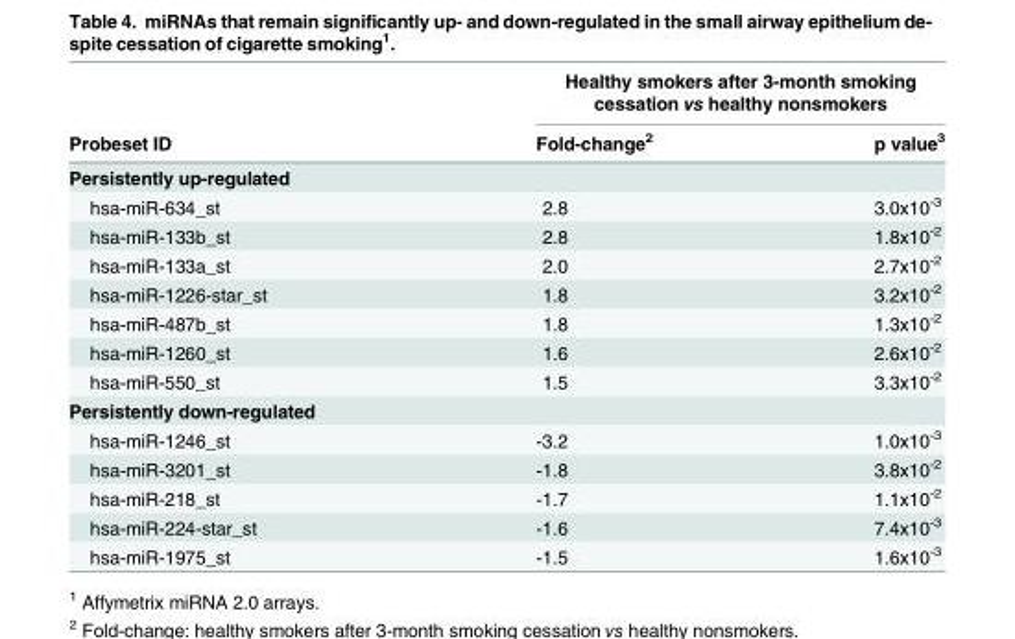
<table><thead><tr><td rowspan="2">Probeset ID</td><td colspan="2">Healthy smokers after 3-month smoking cessation vs healthy nonsmokers</td></tr><tr><td>Fold-change<sup>2</sup></td><td>p value<sup>3</sup></td></tr></thead><tbody><tr><td colspan="3">Persistently up-regulated</td></tr><tr><td>hsa-miR-634_st</td><td>2.8</td><td>3.0x10<sup>-3</sup></td></tr><tr><td>hsa-miR-133b_st</td><td>2.8</td><td>1.8x10<sup>-2</sup></td></tr><tr><td>hsa-miR-133a_st</td><td>2.0</td><td>2.7x10<sup>-2</sup></td></tr><tr><td>hsa-miR-1226-star_st</td><td>1.8</td><td>3.2x10<sup>-2</sup></td></tr><tr><td>hsa-miR-487b_st</td><td>1.8</td><td>1.3x10<sup>-2</sup></td></tr><tr><td>hsa-miR-1260_st</td><td>1.6</td><td>2.6x10<sup>-2</sup></td></tr><tr><td>hsa-miR-550_st</td><td>1.5</td><td>3.3x10<sup>-2</sup></td></tr><tr><td colspan="3">Persistently down-regulated</td></tr><tr><td>hsa-miR-1246_st</td><td>-3.2</td><td>1.0x10<sup>-3</sup></td></tr><tr><td>hsa-miR-3201_st</td><td>-1.8</td><td>3.8x10<sup>-2</sup></td></tr><tr><td>hsa-miR-218_st</td><td>-1.7</td><td>1.1x10<sup>-2</sup></td></tr><tr><td>hsa-miR-224-star_st</td><td>-1.6</td><td>7.4x10<sup>-3</sup></td></tr><tr><td>hsa-miR-1975_st</td><td>-1.5</td><td>1.6x10<sup>-3</sup></td></tr></tbody></table>